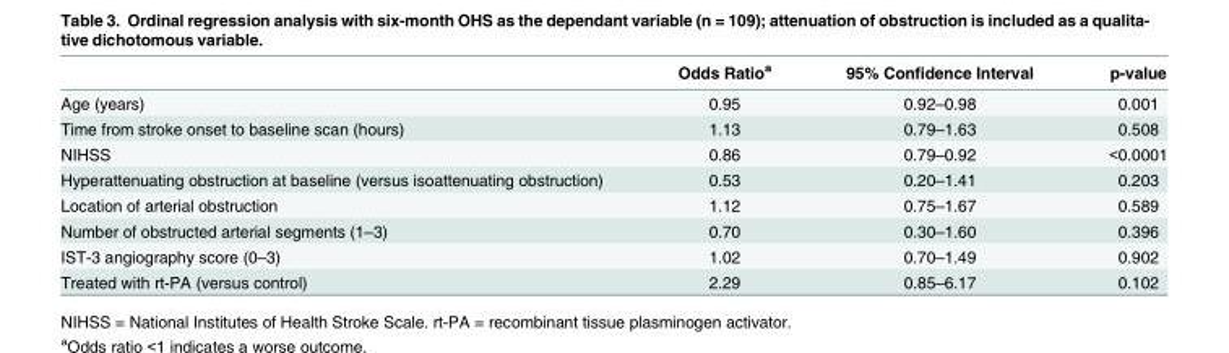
<table><thead><tr><td></td><td>Odds Ratio<sup>a</sup></td><td>95% Confidence Interval</td><td>p-value</td></tr></thead><tbody><tr><td>Age (years)</td><td>0.95</td><td>0.92–0.98</td><td>0.001</td></tr><tr><td>Time from stroke onset to baseline scan (hours)</td><td>1.13</td><td>0.79–1.63</td><td>0.508</td></tr><tr><td>NIHSS</td><td>0.86</td><td>0.79–0.92</td><td>&lt;0.0001</td></tr><tr><td>Hyperattenuating obstruction at baseline (versus isoattenuating obstruction)</td><td>0.53</td><td>0.20–1.41</td><td>0.203</td></tr><tr><td>Location of arterial obstruction</td><td>1.12</td><td>0.75–1.67</td><td>0.589</td></tr><tr><td>Number of obstructed arterial segments (1–3)</td><td>0.70</td><td>0.30–1.60</td><td>0.396</td></tr><tr><td>IST-3 angiography score (0–3)</td><td>1.02</td><td>0.70–1.49</td><td>0.902</td></tr><tr><td>Treated with rt-PA (versus control)</td><td>2.29</td><td>0.85–6.17</td><td>0.102</td></tr></tbody></table>